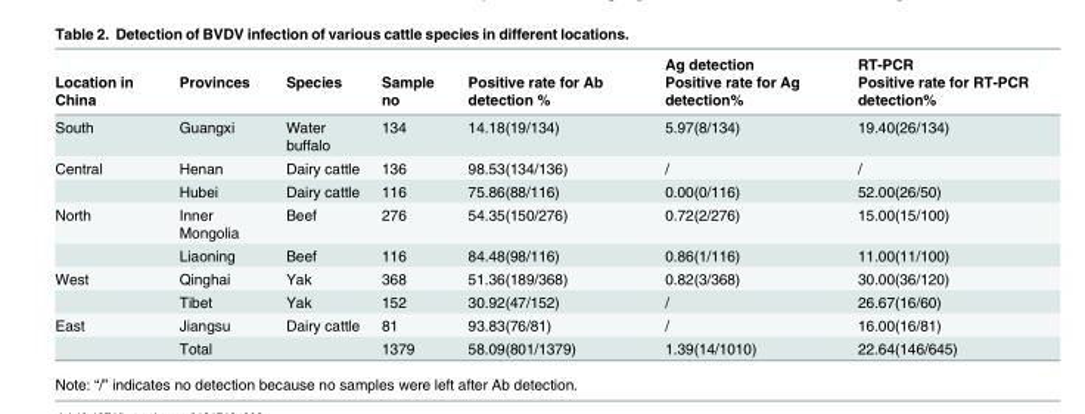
<table><thead><tr><td rowspan="2">Location in China</td><td rowspan="2">Provinces</td><td rowspan="2">Species</td><td rowspan="2">Sample no</td><td rowspan="2">Positive rate for Ab detection %</td><td rowspan="2">Ag detection Positive rate for Ag detection%</td><td rowspan="2">RT-PCR Positive rate for RT-PCR detection%</td></tr><tr></tr></thead><tbody><tr><td>South</td><td>Guangxi</td><td>Water buffalo</td><td>134</td><td>14.18(19/134)</td><td>5.97(8/134)</td><td>19.40(26/134)</td></tr><tr><td rowspan="2">Central</td><td>Henan</td><td>Dairy cattle</td><td>136</td><td>98.53(134/136)</td><td>/</td><td>/</td></tr><tr><td>Hubei</td><td>Dairy cattle</td><td>116</td><td>75.86(88/116)</td><td>0.00(0/116)</td><td>52.00(26/50)</td></tr><tr><td rowspan="2">North</td><td>Inner Mongolia</td><td>Beef</td><td>276</td><td>54.35(150/276)</td><td>0.72(2/276)</td><td>15.00(15/100)</td></tr><tr><td>Liaoning</td><td>Beef</td><td>116</td><td>84.48(98/116)</td><td>0.86(1/116)</td><td>11.00(11/100)</td></tr><tr><td rowspan="2">West</td><td>Qinghai</td><td>Yak</td><td>368</td><td>51.36(189/368)</td><td>0.82(3/368)</td><td>30.00(36/120)</td></tr><tr><td>Tibet</td><td>Yak</td><td>152</td><td>30.92(47/152)</td><td>/</td><td>26.67(16/60)</td></tr><tr><td rowspan="2">East</td><td>Jiangsu</td><td>Dairy cattle</td><td>81</td><td>93.83(76/81)</td><td>/</td><td>16.00(16/81)</td></tr><tr><td>Total</td><td></td><td>1379</td><td>58.09(801/1379)</td><td>1.39(14/1010)</td><td>22.64(146/645)</td></tr></tbody></table>